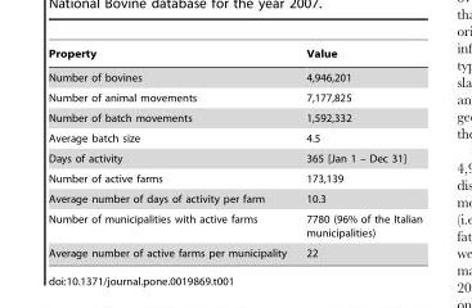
<table><thead><tr><td>Property</td><td>Value</td></tr></thead><tbody><tr><td>Number of bovines</td><td>4,946,201</td></tr><tr><td>Number of animal movements</td><td>7,177,825</td></tr><tr><td>Number of batch movements</td><td>1,592,332</td></tr><tr><td>Average batch size</td><td>4.5</td></tr><tr><td>Days of activity</td><td>365 [Jan 1 – Dec 31]</td></tr><tr><td>Number of active farms</td><td>173,139</td></tr><tr><td>Average number of days of activity per farm</td><td>10.3</td></tr><tr><td>Number of municipalities with active farms</td><td>7780 (96% of the Italian municipalities)</td></tr><tr><td>Average number of active farms per municipality</td><td>22</td></tr></tbody></table>